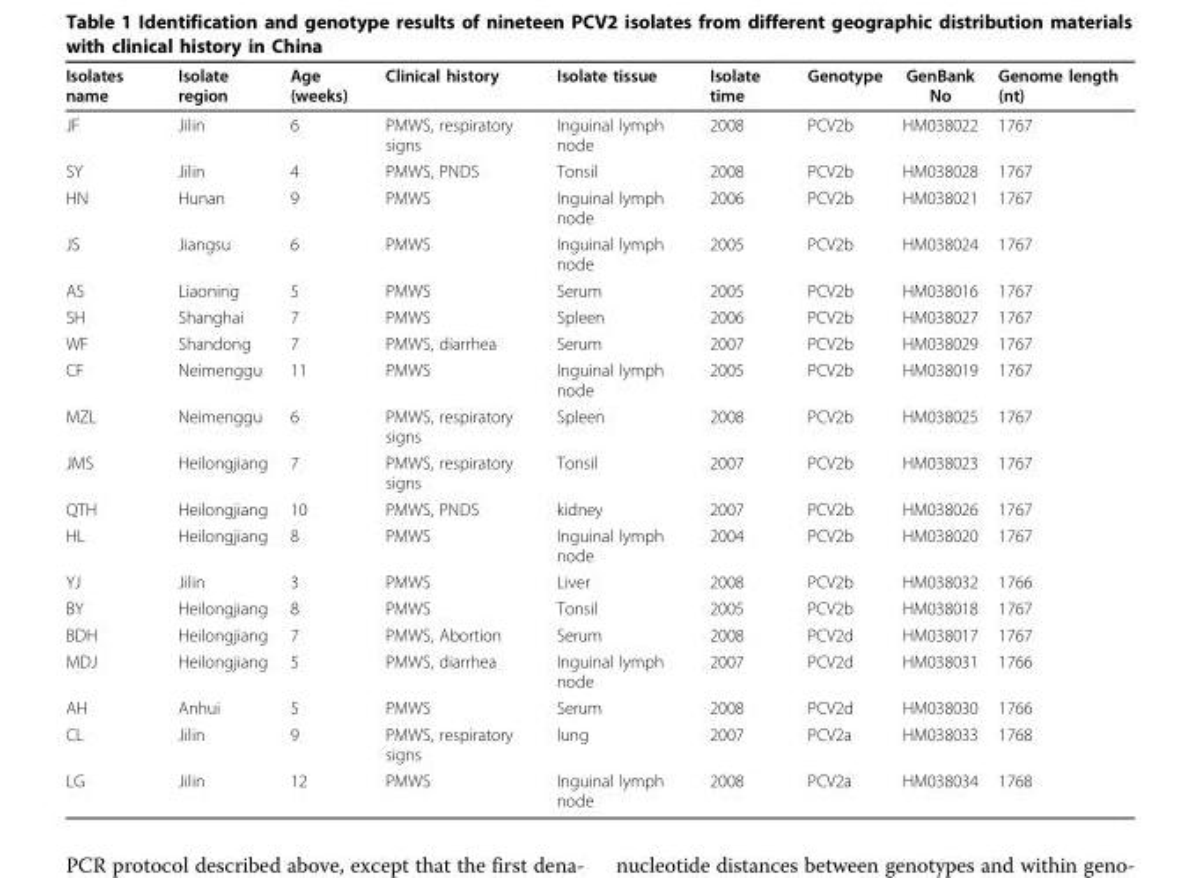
<table><thead><tr><td>Isolates name</td><td>Isolate region</td><td>Age (weeks)</td><td>Clinical history</td><td>Isolate tissue</td><td>Isolate time</td><td>Genotype</td><td>GenBank No</td><td>Genome length (nt)</td></tr></thead><tbody><tr><td>JF</td><td>Jilin</td><td>6</td><td>PMWS, respiratory signs</td><td>Inguinal lymph node</td><td>2008</td><td>PCV2b</td><td>HM038022</td><td>1767</td></tr><tr><td>SY</td><td>Jilin</td><td>4</td><td>PMWS, PNDS</td><td>Tonsil</td><td>2008</td><td>PCV2b</td><td>HM038028</td><td>1767</td></tr><tr><td>HN</td><td>Hunan</td><td>9</td><td>PMWS</td><td>Inguinal lymph node</td><td>2006</td><td>PCV2b</td><td>HM038021</td><td>1767</td></tr><tr><td>JS</td><td>Jiangsu</td><td>6</td><td>PMWS</td><td>Inguinal lymph node</td><td>2005</td><td>PCV2b</td><td>HM038024</td><td>1767</td></tr><tr><td>AS</td><td>Liaoning</td><td>5</td><td>PMWS</td><td>Serum</td><td>2005</td><td>PCV2b</td><td>HM038016</td><td>1767</td></tr><tr><td>SH</td><td>Shanghai</td><td>7</td><td>PMWS</td><td>Spleen</td><td>2006</td><td>PCV2b</td><td>HM038027</td><td>1767</td></tr><tr><td>WF</td><td>Shandong</td><td>7</td><td>PMWS, diarrhea</td><td>Serum</td><td>2007</td><td>PCV2b</td><td>HM038029</td><td>1767</td></tr><tr><td>CF</td><td>Neimenggu</td><td>11</td><td>PMWS</td><td>Inguinal lymph node</td><td>2005</td><td>PCV2b</td><td>HM038019</td><td>1767</td></tr><tr><td>MZL</td><td>Neimenggu</td><td>6</td><td>PMWS, respiratory signs</td><td>Spleen</td><td>2008</td><td>PCV2b</td><td>HM038025</td><td>1767</td></tr><tr><td>JMS</td><td>Heilongjiang</td><td>7</td><td>PMWS, respiratory signs</td><td>Tonsil</td><td>2007</td><td>PCV2b</td><td>HM038023</td><td>1767</td></tr><tr><td>QTH</td><td>Heilongjiang</td><td>10</td><td>PMWS, PNDS</td><td>kidney</td><td>2007</td><td>PCV2b</td><td>HM038026</td><td>1767</td></tr><tr><td>HL</td><td>Heilongjiang</td><td>8</td><td>PMWS</td><td>Inguinal lymph node</td><td>2004</td><td>PCV2b</td><td>HM038020</td><td>1767</td></tr><tr><td>YJ</td><td>Jilin</td><td>3</td><td>PMWS</td><td>Liver</td><td>2008</td><td>PCV2b</td><td>HM038032</td><td>1766</td></tr><tr><td>BY</td><td>Heilongjiang</td><td>8</td><td>PMWS</td><td>Tonsil</td><td>2005</td><td>PCV2b</td><td>HM038018</td><td>1767</td></tr><tr><td>BDH</td><td>Heilongjiang</td><td>7</td><td>PMWS, Abortion</td><td>Serum</td><td>2008</td><td>PCV2d</td><td>HM038017</td><td>1767</td></tr><tr><td>MDJ</td><td>Heilongjiang</td><td>5</td><td>PMWS, diarrhea</td><td>Inguinal lymph node</td><td>2007</td><td>PCV2d</td><td>HM038031</td><td>1766</td></tr><tr><td>AH</td><td>Anhui</td><td>5</td><td>PMWS</td><td>Serum</td><td>2008</td><td>PCV2d</td><td>HM038030</td><td>1766</td></tr><tr><td>CL</td><td>Jilin</td><td>9</td><td>PMWS, respiratory signs</td><td>lung</td><td>2007</td><td>PCV2a</td><td>HM038033</td><td>1768</td></tr><tr><td>LG</td><td>Jilin</td><td>12</td><td>PMWS</td><td>Inguinal lymph node</td><td>2008</td><td>PCV2a</td><td>HM038034</td><td>1768</td></tr></tbody></table>